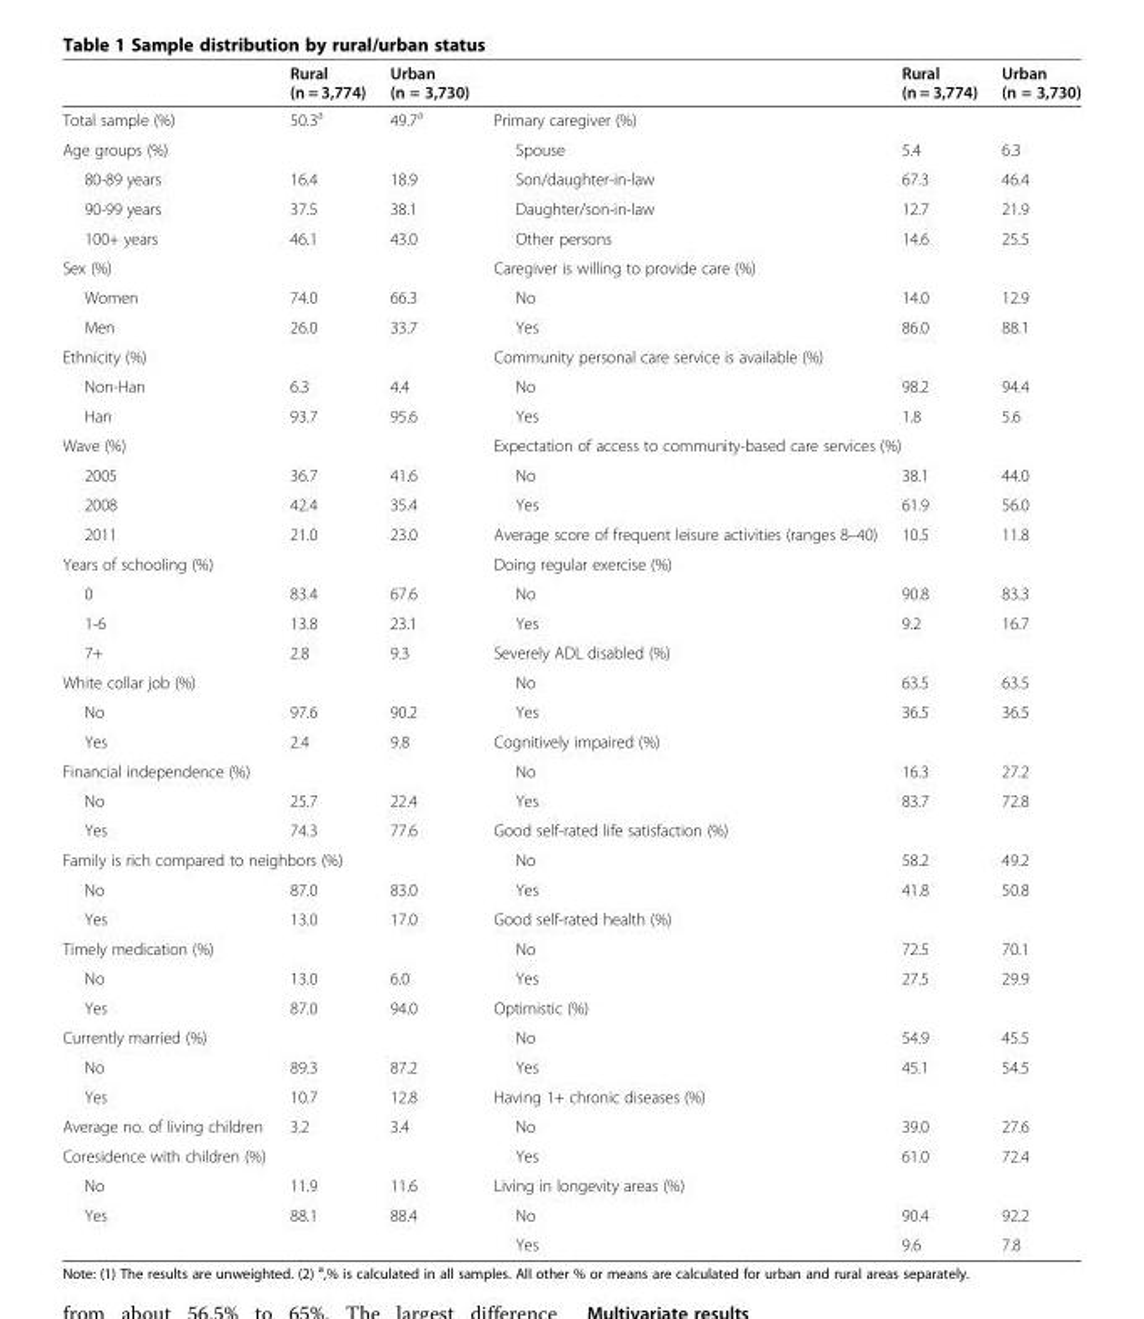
<table><thead><tr><td></td><td>Rural (n = 3,774)</td><td>Urban (n = 3,730)</td><td></td><td>Rural (n = 3,774)</td><td>Urban (n = 3,730)</td></tr></thead><tbody><tr><td>Total sample (%)</td><td>50.3<sup>a</sup></td><td>49.7<sup>a</sup></td><td>Primary caregiver (%)</td><td></td><td></td></tr><tr><td>Age groups (%)</td><td></td><td></td><td>Spouse</td><td>5.4</td><td>6.3</td></tr><tr><td>80-89 years</td><td>16.4</td><td>18.9</td><td>Son/daughter-in-law</td><td>67.3</td><td>46.4</td></tr><tr><td>90-99 years</td><td>37.5</td><td>38.1</td><td>Daughter/son-in-law</td><td>12.7</td><td>21.9</td></tr><tr><td>100+ years</td><td>46.1</td><td>43.0</td><td>Other persons</td><td>14.6</td><td>25.5</td></tr><tr><td>Sex (%)</td><td></td><td></td><td colspan="3">Caregiver is willing to provide care (%)</td></tr><tr><td>Women</td><td>74.0</td><td>66.3</td><td>No</td><td>14.0</td><td>12.9</td></tr><tr><td>Men</td><td>26.0</td><td>33.7</td><td>Yes</td><td>86.0</td><td>88.1</td></tr><tr><td>Ethnicity (%)</td><td></td><td></td><td colspan="3">Community personal care service is available (%)</td></tr><tr><td>Non-Han</td><td>6.3</td><td>4.4</td><td>No</td><td>98.2</td><td>94.4</td></tr><tr><td>Han</td><td>93.7</td><td>95.6</td><td>Yes</td><td>1.8</td><td>5.6</td></tr><tr><td>Wave (%)</td><td></td><td></td><td colspan="3">Expectation of access to community-based care services (%)</td></tr><tr><td>2005</td><td>36.7</td><td>41.6</td><td>No</td><td>38.1</td><td>44.0</td></tr><tr><td>2008</td><td>42.4</td><td>35.4</td><td>Yes</td><td>61.9</td><td>56.0</td></tr><tr><td>2011</td><td>21.0</td><td>23.0</td><td>Average score of frequent leisure activities (ranges 8–40)</td><td>10.5</td><td>11.8</td></tr><tr><td>Years of schooling (%)</td><td></td><td></td><td>Doing regular exercise (%)</td><td></td><td></td></tr><tr><td>0</td><td>83.4</td><td>67.6</td><td>No</td><td>90.8</td><td>83.3</td></tr><tr><td>1-6</td><td>13.8</td><td>23.1</td><td>Yes</td><td>9.2</td><td>16.7</td></tr><tr><td>7+</td><td>2.8</td><td>9.3</td><td>Severely ADL disabled (%)</td><td></td><td></td></tr><tr><td>White collar job (%)</td><td></td><td></td><td>No</td><td>63.5</td><td>63.5</td></tr><tr><td>No</td><td>97.6</td><td>90.2</td><td>Yes</td><td>36.5</td><td>36.5</td></tr><tr><td>Yes</td><td>2.4</td><td>9.8</td><td>Cognitively impaired (%)</td><td></td><td></td></tr><tr><td colspan="3">Financial independence (%)</td><td>No</td><td>16.3</td><td>27.2</td></tr><tr><td>No</td><td>25.7</td><td>22.4</td><td>Yes</td><td>83.7</td><td>72.8</td></tr><tr><td>Yes</td><td>74.3</td><td>77.6</td><td>Good self-rated life satisfaction (%)</td><td></td><td></td></tr><tr><td colspan="3">Family is rich compared to neighbors (%)</td><td>No</td><td>58.2</td><td>49.2</td></tr><tr><td>No</td><td>87.0</td><td>83.0</td><td>Yes</td><td>41.8</td><td>50.8</td></tr><tr><td>Yes</td><td>13.0</td><td>17.0</td><td>Good self-rated health (%)</td><td></td><td></td></tr><tr><td>Timely medication (%)</td><td></td><td></td><td>No</td><td>72.5</td><td>70.1</td></tr><tr><td>No</td><td>13.0</td><td>6.0</td><td>Yes</td><td>27.5</td><td>29.9</td></tr><tr><td>Yes</td><td>87.0</td><td>94.0</td><td>Optimistic (%)</td><td></td><td></td></tr><tr><td>Currently married (%)</td><td></td><td></td><td>No</td><td>54.9</td><td>45.5</td></tr><tr><td>No</td><td>89.3</td><td>87.2</td><td>Yes</td><td>45.1</td><td>54.5</td></tr><tr><td>Yes</td><td>10.7</td><td>12.8</td><td>Having 1+ chronic diseases (%)</td><td></td><td></td></tr><tr><td>Average no. of living children</td><td>3.2</td><td>3.4</td><td>No</td><td>39.0</td><td>27.6</td></tr><tr><td>Coresidence with children (%)</td><td></td><td></td><td>Yes</td><td>61.0</td><td>72.4</td></tr><tr><td>No</td><td>11.9</td><td>11.6</td><td>Living in longevity areas (%)</td><td></td><td></td></tr><tr><td rowspan="2">Yes</td><td>88.1</td><td>88.4</td><td>No</td><td>90.4</td><td>92.2</td></tr><tr><td></td><td></td><td>Yes</td><td>9.6</td><td>7.8</td></tr></tbody></table>